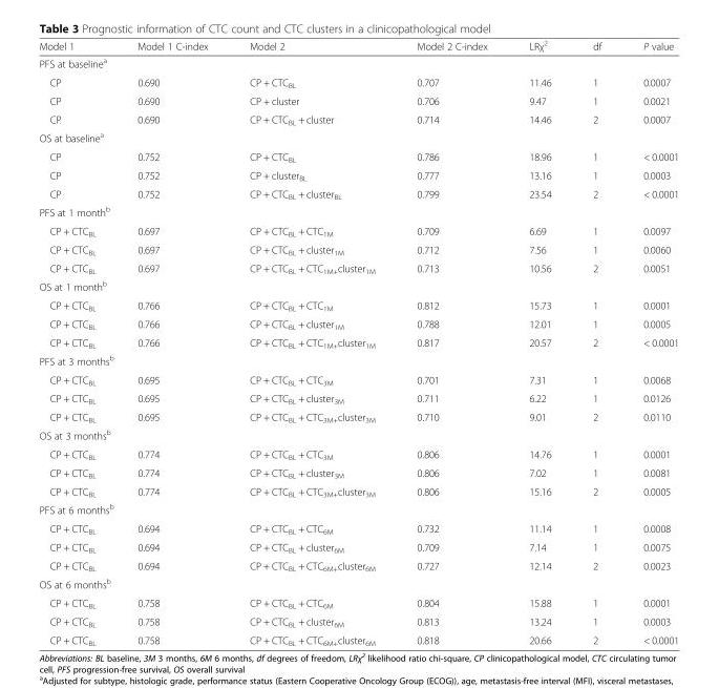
<table><thead><tr><td>Model 1</td><td>Model 1 C-index</td><td>Model 2</td><td>Model 2 C-index</td><td>LRχ<sup>2</sup></td><td>df</td><td>P value</td></tr></thead><tbody><tr><td colspan="7">PFS at baseline<sup>a</sup></td></tr><tr><td>CP</td><td>0.690</td><td>CP + CTC<sub>BL</sub></td><td>0.707</td><td>11.46</td><td>1</td><td>0.0007</td></tr><tr><td>CP</td><td>0.690</td><td>CP + cluster</td><td>0.706</td><td>9.47</td><td>1</td><td>0.0021</td></tr><tr><td>CP</td><td>0.690</td><td>CP + CTC<sub>BL</sub> + cluster</td><td>0.714</td><td>14.46</td><td>2</td><td>0.0007</td></tr><tr><td colspan="7">OS at baseline<sup>a</sup></td></tr><tr><td>CP</td><td>0.752</td><td>CP + CTC<sub>BL</sub></td><td>0.786</td><td>18.96</td><td>1</td><td>&lt; 0.0001</td></tr><tr><td>CP</td><td>0.752</td><td>CP + cluster<sub>BL</sub></td><td>0.777</td><td>13.16</td><td>1</td><td>0.0003</td></tr><tr><td>CP</td><td>0.752</td><td>CP + CTC<sub>BL</sub> + cluster<sub>BL</sub></td><td>0.799</td><td>23.54</td><td>2</td><td>&lt; 0.0001</td></tr><tr><td colspan="7">PFS at 1 month<sup>b</sup></td></tr><tr><td>CP + CTC<sub>BL</sub></td><td>0.697</td><td>CP + CTC<sub>BL</sub> + CTC<sub>1M</sub></td><td>0.709</td><td>6.69</td><td>1</td><td>0.0097</td></tr><tr><td>CP + CTC<sub>BL</sub></td><td>0.697</td><td>CP + CTC<sub>BL</sub> + cluster<sub>1M</sub></td><td>0.712</td><td>7.56</td><td>1</td><td>0.0060</td></tr><tr><td>CP + CTC<sub>BL</sub></td><td>0.697</td><td>CP + CTC<sub>BL</sub> + CTC<sub>1M+</sub>cluster<sub>1M</sub></td><td>0.713</td><td>10.56</td><td>2</td><td>0.0051</td></tr><tr><td colspan="7">OS at 1 month<sup>b</sup></td></tr><tr><td>CP + CTC<sub>BL</sub></td><td>0.766</td><td>CP + CTC<sub>BL</sub> + CTC<sub>1M</sub></td><td>0.812</td><td>15.73</td><td>1</td><td>0.0001</td></tr><tr><td>CP + CTC<sub>BL</sub></td><td>0.766</td><td>CP + CTC<sub>BL</sub> + cluster<sub>1M</sub></td><td>0.788</td><td>12.01</td><td>1</td><td>0.0005</td></tr><tr><td>CP + CTC<sub>BL</sub></td><td>0.766</td><td>CP + CTC<sub>BL</sub> + CTC<sub>1M+</sub>cluster<sub>1M</sub></td><td>0.817</td><td>20.57</td><td>2</td><td>&lt; 0.0001</td></tr><tr><td colspan="7">PFS at 3 months<sup>b</sup></td></tr><tr><td>CP + CTC<sub>BL</sub></td><td>0.695</td><td>CP + CTC<sub>BL</sub> + CTC<sub>3M</sub></td><td>0.701</td><td>7.31</td><td>1</td><td>0.0068</td></tr><tr><td>CP + CTC<sub>BL</sub></td><td>0.695</td><td>CP + CTC<sub>BL</sub> + cluster<sub>3M</sub></td><td>0.711</td><td>6.22</td><td>1</td><td>0.0126</td></tr><tr><td>CP + CTC<sub>BL</sub></td><td>0.695</td><td>CP + CTC<sub>BL</sub> + CTC<sub>3M+</sub>cluster<sub>3M</sub></td><td>0.710</td><td>9.01</td><td>2</td><td>0.0110</td></tr><tr><td colspan="7">OS at 3 months<sup>b</sup></td></tr><tr><td>CP + CTC<sub>BL</sub></td><td>0.774</td><td>CP + CTC<sub>BL</sub> + CTC<sub>3M</sub></td><td>0.806</td><td>14.76</td><td>1</td><td>0.0001</td></tr><tr><td>CP + CTC<sub>BL</sub></td><td>0.774</td><td>CP + CTC<sub>BL</sub> + cluster<sub>3M</sub></td><td>0.806</td><td>7.02</td><td>1</td><td>0.0081</td></tr><tr><td>CP + CTC<sub>BL</sub></td><td>0.774</td><td>CP + CTC<sub>BL</sub> + CTC<sub>3M+</sub>cluster<sub>3M</sub></td><td>0.806</td><td>15.16</td><td>2</td><td>0.0005</td></tr><tr><td colspan="7">PFS at 6 months<sup>b</sup></td></tr><tr><td>CP + CTC<sub>BL</sub></td><td>0.694</td><td>CP + CTC<sub>BL</sub> + CTC<sub>6M</sub></td><td>0.732</td><td>11.14</td><td>1</td><td>0.0008</td></tr><tr><td>CP + CTC<sub>BL</sub></td><td>0.694</td><td>CP + CTC<sub>BL</sub> + cluster<sub>6M</sub></td><td>0.709</td><td>7.14</td><td>1</td><td>0.0075</td></tr><tr><td>CP + CTC<sub>BL</sub></td><td>0.694</td><td>CP + CTC<sub>BL</sub> + CTC<sub>6M+</sub>cluster<sub>6M</sub></td><td>0.727</td><td>12.14</td><td>2</td><td>0.0023</td></tr><tr><td colspan="7">OS at 6 months<sup>b</sup></td></tr><tr><td>CP + CTC<sub>BL</sub></td><td>0.758</td><td>CP + CTC<sub>BL</sub> + CTC<sub>6M</sub></td><td>0.804</td><td>15.88</td><td>1</td><td>0.0001</td></tr><tr><td>CP + CTC<sub>BL</sub></td><td>0.758</td><td>CP + CTC<sub>BL</sub> + cluster<sub>6M</sub></td><td>0.813</td><td>13.24</td><td>1</td><td>0.0003</td></tr><tr><td>CP + CTC<sub>BL</sub></td><td>0.758</td><td>CP + CTC<sub>BL</sub> + CTC<sub>6M+</sub>cluster<sub>6M</sub></td><td>0.818</td><td>20.66</td><td>2</td><td>&lt; 0.0001</td></tr></tbody></table>